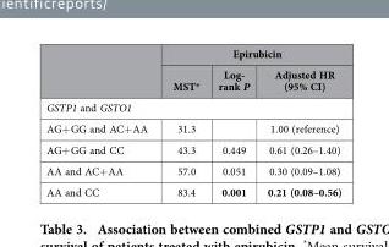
<table><thead><tr><td rowspan="2"></td><td colspan="3">Epirubicin</td></tr><tr><td>MST*</td><td>Log- rank P</td><td>Adjusted HR (95% CI)</td></tr></thead><tbody><tr><td colspan="4">GSTP1 and GSTO1</td></tr><tr><td>AG+ GG and AC+ AA</td><td>31.3</td><td></td><td>1.00 (reference)</td></tr><tr><td>AG+ GG and CC</td><td>43.3</td><td>0.449</td><td>0.61 (0.26–1.40)</td></tr><tr><td>AA and AC+ AA</td><td>57.0</td><td>0.051</td><td>0.30 (0.09–1.08)</td></tr><tr><td>AA and CC</td><td>83.4</td><td>0.001</td><td>0.21 (0.08–0.56)</td></tr></tbody></table>